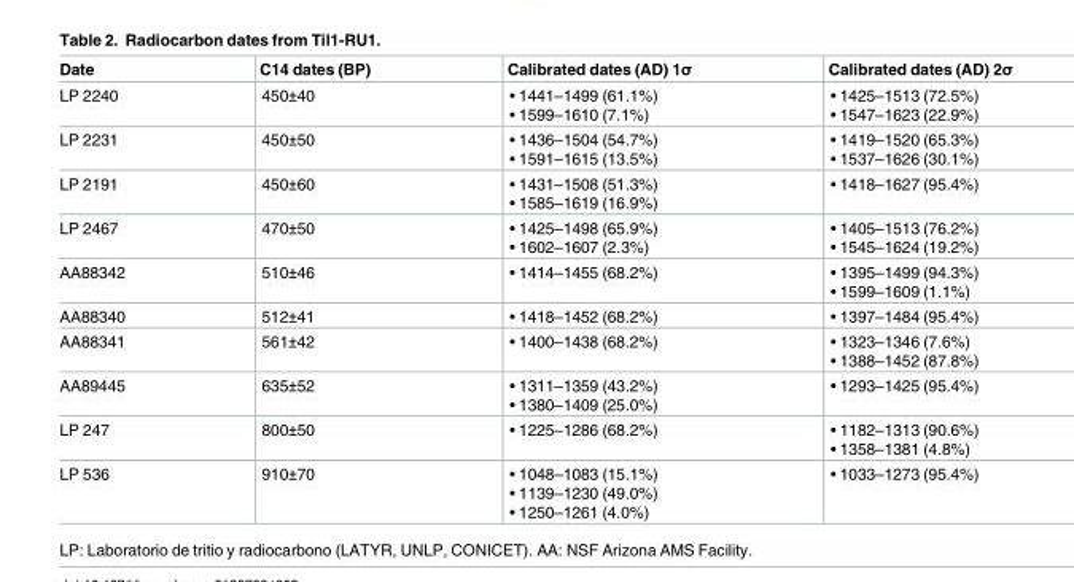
<table><thead><tr><td>Date</td><td>C14 dates (BP)</td><td>Calibrated dates (AD) 1σ</td><td>Calibrated dates (AD) 2σ</td></tr></thead><tbody><tr><td>LP 2240</td><td>450±40</td><td>• 1441–1499 (61.1%) • 1599–1610 (7.1%)</td><td>• 1425–1513 (72.5%) • 1547–1623 (22.9%)</td></tr><tr><td>LP 2231</td><td>450±50</td><td>• 1436–1504 (54.7%) • 1591–1615 (13.5%)</td><td>• 1419–1520 (65.3%) • 1537–1626 (30.1%)</td></tr><tr><td>LP 2191</td><td>450±60</td><td>• 1431–1508 (51.3%) • 1585–1619 (16.9%)</td><td>• 1418–1627 (95.4%)</td></tr><tr><td>LP 2467</td><td>470±50</td><td>• 1425–1498 (65.9%) • 1602–1607 (2.3%)</td><td>• 1405–1513 (76.2%) • 1545–1624 (19.2%)</td></tr><tr><td>AA88342</td><td>510±46</td><td>• 1414–1455 (68.2%)</td><td>• 1395–1499 (94.3%) • 1599–1609 (1.1%)</td></tr><tr><td>AA88340</td><td>512±41</td><td>• 1418–1452 (68.2%)</td><td>• 1397–1484 (95.4%)</td></tr><tr><td>AA88341</td><td>561±42</td><td>• 1400–1438 (68.2%)</td><td>• 1323–1346 (7.6%) • 1388–1452 (87.8%)</td></tr><tr><td>AA89445</td><td>635±52</td><td>• 1311–1359 (43.2%) • 1380–1409 (25.0%)</td><td>• 1293–1425 (95.4%)</td></tr><tr><td>LP 247</td><td>800±50</td><td>• 1225–1286 (68.2%)</td><td>• 1182–1313 (90.6%) • 1358–1381 (4.8%)</td></tr><tr><td>LP 536</td><td>910±70</td><td>• 1048–1083 (15.1%) • 1139–1230 (49.0%) • 1250–1261 (4.0%)</td><td>• 1033–1273 (95.4%)</td></tr></tbody></table>